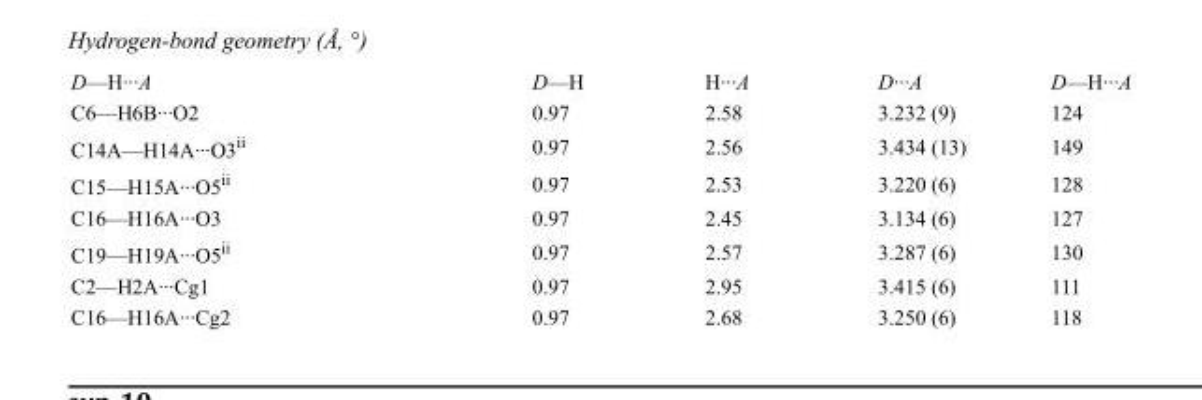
<table><tbody><tr><td>D—H···A</td><td>D—H</td><td>H···A</td><td>D···A</td><td>D—H···A</td></tr><tr><td>C6—H6B···O2</td><td>0.97</td><td>2.58</td><td>3.232 (9)</td><td>124</td></tr><tr><td>C14A—H14A···O3<sup>ii</sup></td><td>0.97</td><td>2.56</td><td>3.434 (13)</td><td>149</td></tr><tr><td>C15—H15A···O5<sup>ii</sup></td><td>0.97</td><td>2.53</td><td>3.220 (6)</td><td>128</td></tr><tr><td>C16—H16A···O3</td><td>0.97</td><td>2.45</td><td>3.134 (6)</td><td>127</td></tr><tr><td>C19—H19A···O5<sup>ii</sup></td><td>0.97</td><td>2.57</td><td>3.287 (6)</td><td>130</td></tr><tr><td>C2—H2A···Cg1</td><td>0.97</td><td>2.95</td><td>3.415 (6)</td><td>111</td></tr><tr><td>C16—H16A···Cg2</td><td>0.97</td><td>2.68</td><td>3.250 (6)</td><td>118</td></tr></tbody></table>